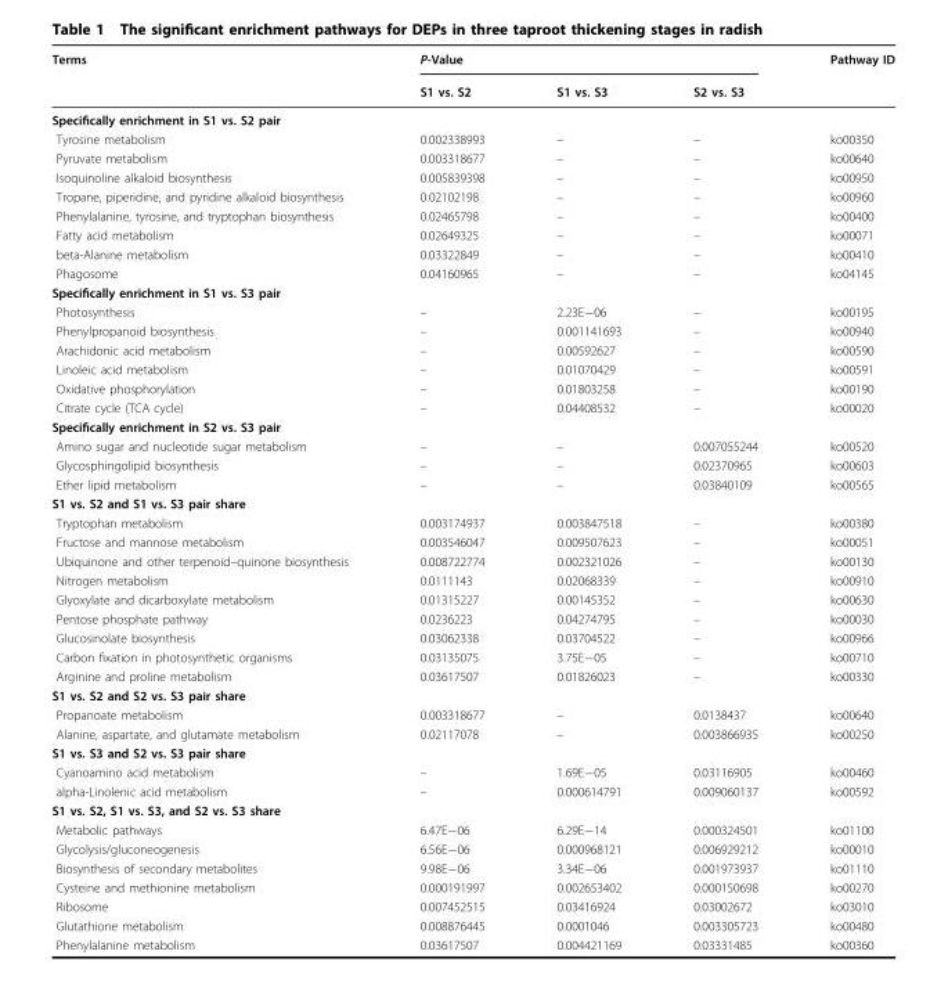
<table><thead><tr><td rowspan="2">Terms</td><td colspan="3">P-Value</td><td rowspan="2">Pathway ID</td></tr><tr><td>S1 vs. S2</td><td>S1 vs. S3</td><td>S2 vs. S3</td></tr></thead><tbody><tr><td colspan="5">Specifically enrichment in S1 vs. S2 pair</td></tr><tr><td>Tyrosine metabolism</td><td>0.002338993</td><td>–</td><td>–</td><td>ko00350</td></tr><tr><td>Pyruvate metabolism</td><td>0.003318677</td><td>–</td><td>–</td><td>ko00640</td></tr><tr><td>Isoquinoline alkaloid biosynthesis</td><td>0.005839398</td><td>–</td><td>–</td><td>ko00950</td></tr><tr><td>Tropane, piperidine, and pyridine alkaloid biosynthesis</td><td>0.02102198</td><td>–</td><td>–</td><td>ko00960</td></tr><tr><td>Phenylalanine, tyrosine, and tryptophan biosynthesis</td><td>0.02465798</td><td>–</td><td>–</td><td>ko00400</td></tr><tr><td>Fatty acid metabolism</td><td>0.02649325</td><td>–</td><td>–</td><td>ko00071</td></tr><tr><td>beta-Alanine metabolism</td><td>0.03322849</td><td>–</td><td>–</td><td>ko00410</td></tr><tr><td>Phagosome</td><td>0.04160965</td><td>–</td><td>–</td><td>ko04145</td></tr><tr><td colspan="5">Specifically enrichment in S1 vs. S3 pair</td></tr><tr><td>Photosynthesis</td><td>–</td><td>2.23E−06</td><td>–</td><td>ko00195</td></tr><tr><td>Phenylpropanoid biosynthesis</td><td>–</td><td>0.001141693</td><td>–</td><td>ko00940</td></tr><tr><td>Arachidonic acid metabolism</td><td>–</td><td>0.00592627</td><td>–</td><td>ko00590</td></tr><tr><td>Linoleic acid metabolism</td><td>–</td><td>0.01070429</td><td>–</td><td>ko00591</td></tr><tr><td>Oxidative phosphorylation</td><td>–</td><td>0.01803258</td><td>–</td><td>ko00190</td></tr><tr><td>Citrate cycle (TCA cycle)</td><td>–</td><td>0.04408532</td><td>–</td><td>ko00020</td></tr><tr><td colspan="5">Specifically enrichment in S2 vs. S3 pair</td></tr><tr><td>Amino sugar and nucleotide sugar metabolism</td><td>–</td><td>–</td><td>0.007055244</td><td>ko00520</td></tr><tr><td>Glycosphingolipid biosynthesis</td><td>–</td><td>–</td><td>0.02370965</td><td>ko00603</td></tr><tr><td>Ether lipid metabolism</td><td>–</td><td>–</td><td>0.03840109</td><td>ko00565</td></tr><tr><td colspan="5">S1 vs. S2 and S1 vs. S3 pair share</td></tr><tr><td>Tryptophan metabolism</td><td>0.003174937</td><td>0.003847518</td><td>–</td><td>ko00380</td></tr><tr><td>Fructose and mannose metabolism</td><td>0.003546047</td><td>0.009507623</td><td>–</td><td>ko00051</td></tr><tr><td>Ubiquinone and other terpenoid–quinone biosynthesis</td><td>0.008722774</td><td>0.002321026</td><td>–</td><td>ko00130</td></tr><tr><td>Nitrogen metabolism</td><td>0.0111143</td><td>0.02068339</td><td>–</td><td>ko00910</td></tr><tr><td>Glyoxylate and dicarboxylate metabolism</td><td>0.01315227</td><td>0.00145352</td><td>–</td><td>ko00630</td></tr><tr><td>Pentose phosphate pathway</td><td>0.0236223</td><td>0.04274795</td><td>–</td><td>ko00030</td></tr><tr><td>Glucosinolate biosynthesis</td><td>0.03062338</td><td>0.03704522</td><td>–</td><td>ko00966</td></tr><tr><td>Carbon fixation in photosynthetic organisms</td><td>0.03135075</td><td>3.75E−05</td><td>–</td><td>ko00710</td></tr><tr><td>Arginine and proline metabolism</td><td>0.03617507</td><td>0.01826023</td><td>–</td><td>ko00330</td></tr><tr><td colspan="5">S1 vs. S2 and S2 vs. S3 pair share</td></tr><tr><td>Propanoate metabolism</td><td>0.003318677</td><td>–</td><td>0.0138437</td><td>ko00640</td></tr><tr><td>Alanine, aspartate, and glutamate metabolism</td><td>0.02117078</td><td>–</td><td>0.003866935</td><td>ko00250</td></tr><tr><td colspan="5">S1 vs. S3 and S2 vs. S3 pair share</td></tr><tr><td>Cyanoamino acid metabolism</td><td>–</td><td>1.69E−05</td><td>0.03116905</td><td>ko00460</td></tr><tr><td>alpha-Linolenic acid metabolism</td><td>–</td><td>0.000614791</td><td>0.009060137</td><td>ko00592</td></tr><tr><td colspan="5">S1 vs. S2, S1 vs. S3, and S2 vs. S3 share</td></tr><tr><td>Metabolic pathways</td><td>6.47E−06</td><td>6.29E−14</td><td>0.000324501</td><td>ko01100</td></tr><tr><td>Glycolysis/gluconeogenesis</td><td>6.56E−06</td><td>0.000968121</td><td>0.006929212</td><td>ko00010</td></tr><tr><td>Biosynthesis of secondary metabolites</td><td>9.98E−06</td><td>3.34E−06</td><td>0.001973937</td><td>ko01110</td></tr><tr><td>Cysteine and methionine metabolism</td><td>0.000191997</td><td>0.002653402</td><td>0.000150698</td><td>ko00270</td></tr><tr><td>Ribosome</td><td>0.007452515</td><td>0.03416924</td><td>0.03002672</td><td>ko03010</td></tr><tr><td>Glutathione metabolism</td><td>0.008876445</td><td>0.0001046</td><td>0.003305723</td><td>ko00480</td></tr><tr><td>Phenylalanine metabolism</td><td>0.03617507</td><td>0.004421169</td><td>0.03331485</td><td>ko00360</td></tr></tbody></table>